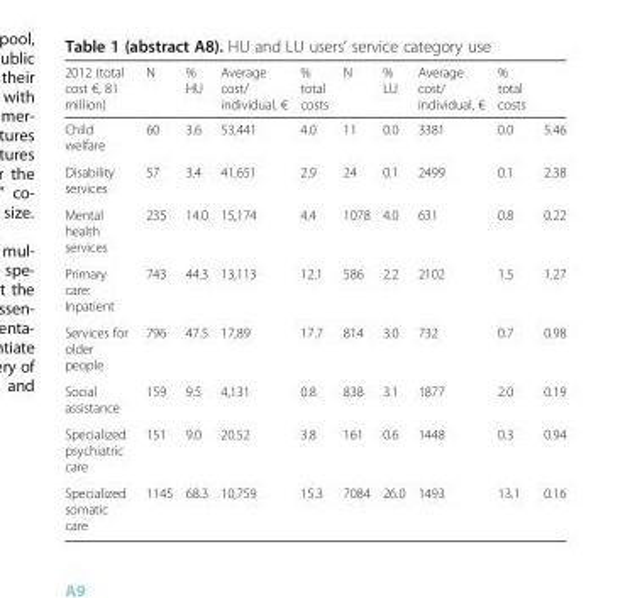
<table><thead><tr><td>2012 (total cost €, 81 million)</td><td>N</td><td>% HU</td><td>Average cost/ individual, €</td><td>% total costs</td><td>N</td><td>% LU</td><td>Average cost/ individual, €</td><td>% total costs</td><td></td></tr></thead><tbody><tr><td>Child welfare</td><td>60</td><td>3.6</td><td>53,441</td><td>4.0</td><td>11</td><td>0.0</td><td>3381</td><td>0.0</td><td>5.46</td></tr><tr><td>Disability services</td><td>57</td><td>3.4</td><td>41,651</td><td>2.9</td><td>24</td><td>0.1</td><td>2499</td><td>0.1</td><td>2.38</td></tr><tr><td>Mental health services</td><td>235</td><td>14.0</td><td>15,174</td><td>4.4</td><td>1078</td><td>4.0</td><td>631</td><td>0.8</td><td>0.22</td></tr><tr><td>Primary care: Inpatient</td><td>743</td><td>44.3</td><td>13,113</td><td>12.1</td><td>586</td><td>2.2</td><td>2102</td><td>1.5</td><td>1.27</td></tr><tr><td>Services for older people</td><td>796</td><td>47.5</td><td>17,89</td><td>17.7</td><td>814</td><td>3.0</td><td>732</td><td>0.7</td><td>0.98</td></tr><tr><td>Social assistance</td><td>159</td><td>9.5</td><td>4,131</td><td>0.8</td><td>838</td><td>3.1</td><td>1877</td><td>2.0</td><td>0.19</td></tr><tr><td>Specialized psychiatric care</td><td>151</td><td>9.0</td><td>20,52</td><td>3.8</td><td>161</td><td>0.6</td><td>1448</td><td>0.3</td><td>0.94</td></tr><tr><td>Specialized somatic care</td><td>1145</td><td>68.3</td><td>10,759</td><td>15.3</td><td>7084</td><td>26.0</td><td>1493</td><td>13.1</td><td>0.16</td></tr></tbody></table>